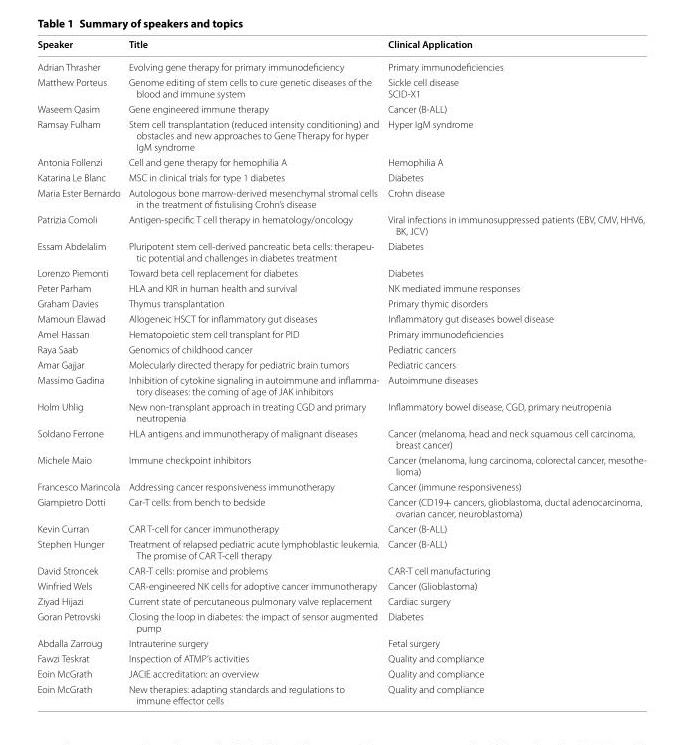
<table><thead><tr><td>Speaker</td><td>Title</td><td>Clinical Application</td></tr></thead><tbody><tr><td>Adrian Thrasher</td><td>Evolving gene therapy for primary immunodeficiency</td><td>Primary immunodeficiencies</td></tr><tr><td>Matthew Porteus</td><td>Genome editing of stem cells to cure genetic diseases of the blood and immune system</td><td>Sickle cell disease SCID‑X1</td></tr><tr><td>Waseem Qasim</td><td>Gene engineered immune therapy</td><td>Cancer (B‑ALL)</td></tr><tr><td>Ramsay Fulham</td><td>Stem cell transplantation (reduced intensity conditioning) and obstacles and new approaches to Gene Therapy for hyper IgM syndrome</td><td>Hyper IgM syndrome</td></tr><tr><td>Antonia Follenzi</td><td>Cell and gene therapy for hemophilia A</td><td>Hemophilia A</td></tr><tr><td>Katarina Le Blanc</td><td>MSC in clinical trials for type 1 diabetes</td><td>Diabetes</td></tr><tr><td>Maria Ester Bernardo</td><td>Autologous bone marrow‑derived mesenchymal stromal cells in the treatment of fistulising Crohn’s disease</td><td>Crohn disease</td></tr><tr><td>Patrizia Comoli</td><td>Antigen‑specific T cell therapy in hematology/oncology</td><td>Viral infections in immunosuppressed patients (EBV, CMV, HHV6, BK, JCV)</td></tr><tr><td>Essam Abdelalim</td><td>Pluripotent stem cell‑derived pancreatic beta cells: therapeu‑ tic potential and challenges in diabetes treatment</td><td>Diabetes</td></tr><tr><td>Lorenzo Piemonti</td><td>Toward beta cell replacement for diabetes</td><td>Diabetes</td></tr><tr><td>Peter Parham</td><td>HLA and KIR in human health and survival</td><td>NK mediated immune responses</td></tr><tr><td>Graham Davies</td><td>Thymus transplantation</td><td>Primary thymic disorders</td></tr><tr><td>Mamoun Elawad</td><td>Allogeneic HSCT for inflammatory gut diseases</td><td>Inflammatory gut diseases bowel disease</td></tr><tr><td>Amel Hassan</td><td>Hematopoietic stem cell transplant for PID</td><td>Primary immunodeficiencies</td></tr><tr><td>Raya Saab</td><td>Genomics of childhood cancer</td><td>Pediatric cancers</td></tr><tr><td>Amar Gajjar</td><td>Molecularly directed therapy for pediatric brain tumors</td><td>Pediatric cancers</td></tr><tr><td>Massimo Gadina</td><td>Inhibition of cytokine signaling in autoimmune and inflamma‑ tory diseases: the coming of age of JAK inhibitors</td><td>Autoimmune diseases</td></tr><tr><td>Holm Uhlig</td><td>New non‑transplant approach in treating CGD and primary neutropenia</td><td>Inflammatory bowel disease, CGD, primary neutropenia</td></tr><tr><td>Soldano Ferrone</td><td>HLA antigens and immunotherapy of malignant diseases</td><td>Cancer (melanoma, head and neck squamous cell carcinoma, breast cancer)</td></tr><tr><td>Michele Maio</td><td>Immune checkpoint inhibitors</td><td>Cancer (melanoma, lung carcinoma, colorectal cancer, mesothe‑ lioma)</td></tr><tr><td>Francesco Marincola</td><td>Addressing cancer responsiveness immunotherapy</td><td>Cancer (immune responsiveness)</td></tr><tr><td>Giampietro Dotti</td><td>Car‑T cells: from bench to bedside</td><td>Cancer (CD19+ cancers, glioblastoma, ductal adenocarcinoma, ovarian cancer, neuroblastoma)</td></tr><tr><td>Kevin Curran</td><td>CAR T‑cell for cancer immunotherapy</td><td>Cancer (B‑ALL)</td></tr><tr><td>Stephen Hunger</td><td>Treatment of relapsed pediatric acute lymphoblastic leukemia. The promise of CAR T‑cell therapy</td><td>Cancer (B‑ALL)</td></tr><tr><td>David Stroncek</td><td>CAR‑T cells: promise and problems</td><td>CAR‑T cell manufacturing</td></tr><tr><td>Winfried Wels</td><td>CAR‑engineered NK cells for adoptive cancer immunotherapy</td><td>Cancer (Glioblastoma)</td></tr><tr><td>Ziyad Hijazi</td><td>Current state of percutaneous pulmonary valve replacement</td><td>Cardiac surgery</td></tr><tr><td>Goran Petrovski</td><td>Closing the loop in diabetes: the impact of sensor augmented pump</td><td>Diabetes</td></tr><tr><td>Abdalla Zarroug</td><td>Intrauterine surgery</td><td>Fetal surgery</td></tr><tr><td>Fawzi Teskrat</td><td>Inspection of ATMP’s activities</td><td>Quality and compliance</td></tr><tr><td>Eoin McGrath</td><td>JACIE accreditation: an overview</td><td>Quality and compliance</td></tr><tr><td>Eoin McGrath</td><td>New therapies: adapting standards and regulations to immune effector cells</td><td>Quality and compliance</td></tr></tbody></table>